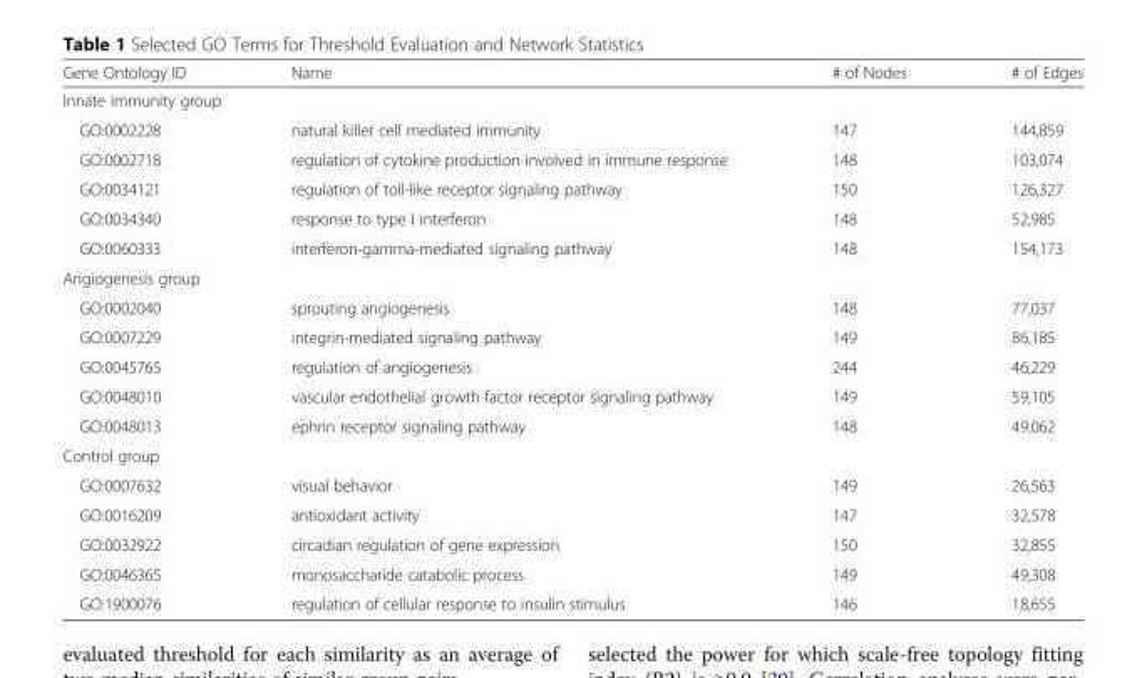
<table><thead><tr><td>Gene Ontology ID</td><td>Name</td><td># of Nodes</td><td># of Edges</td></tr></thead><tbody><tr><td colspan="4">Innate immunity group</td></tr><tr><td>GO:0002228</td><td>natural killer cell mediated immunity</td><td>147</td><td>144,859</td></tr><tr><td>GO:0002718</td><td>regulation of cytokine production involved in immune response</td><td>148</td><td>103,074</td></tr><tr><td>GO:0034121</td><td>regulation of toll-like receptor signaling pathway</td><td>150</td><td>126,327</td></tr><tr><td>GO:0034340</td><td>response to type I interferon</td><td>148</td><td>52,985</td></tr><tr><td>GO:0060333</td><td>interferon-gamma-mediated signaling pathway</td><td>148</td><td>154,173</td></tr><tr><td colspan="4">Angiogenesis group</td></tr><tr><td>GO:0002040</td><td>sprouting angiogenesis</td><td>148</td><td>77,037</td></tr><tr><td>GO:0007229</td><td>integrin-mediated signaling pathway</td><td>149</td><td>86,185</td></tr><tr><td>GO:0045765</td><td>regulation of angiogenesis</td><td>244</td><td>46,229</td></tr><tr><td>GO:0048010</td><td>vascular endothelial growth factor receptor signaling pathway</td><td>149</td><td>59,105</td></tr><tr><td>GO:0048013</td><td>ephrin receptor signaling pathway</td><td>148</td><td>49,062</td></tr><tr><td colspan="4">Control group</td></tr><tr><td>GO:0007632</td><td>visual behavior</td><td>149</td><td>26,563</td></tr><tr><td>GO:0016209</td><td>antioxidant activity</td><td>147</td><td>32,578</td></tr><tr><td>GO:0032922</td><td>circadian regulation of gene expression</td><td>150</td><td>32,855</td></tr><tr><td>GO:0046365</td><td>monosaccharide catabolic process</td><td>149</td><td>49,308</td></tr><tr><td>GO:1900076</td><td>regulation of cellular response to insulin stimulus</td><td>146</td><td>18,655</td></tr></tbody></table>